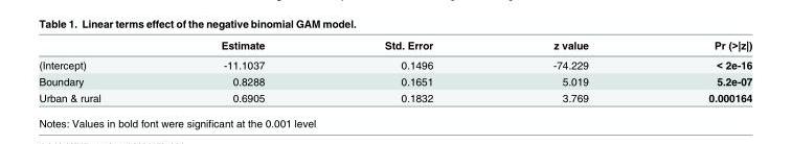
<table><thead><tr><td></td><td>Estimate</td><td>Std. Error</td><td>z value</td><td>Pr (&gt;|z|)</td></tr></thead><tbody><tr><td>(Intercept)</td><td>-11.1037</td><td>0.1496</td><td>-74.229</td><td>&lt; 2e-16</td></tr><tr><td>Boundary</td><td>0.8288</td><td>0.1651</td><td>5.019</td><td>5.2e-07</td></tr><tr><td>Urban &amp; rural</td><td>0.6905</td><td>0.1832</td><td>3.769</td><td>0.000164</td></tr></tbody></table>